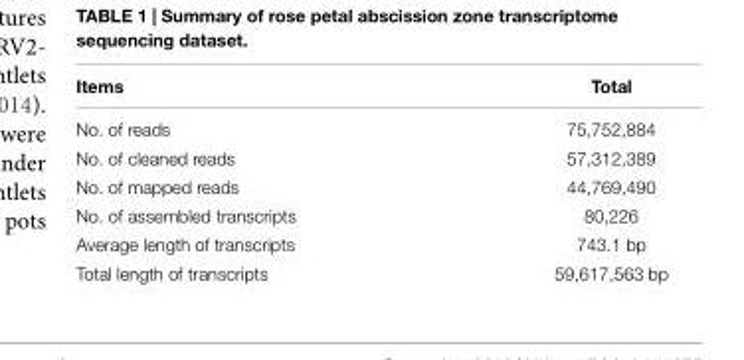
<table><thead><tr><td>Items</td><td>Total</td></tr></thead><tbody><tr><td>No. of reads</td><td>75,752,884</td></tr><tr><td>No. of cleaned reads</td><td>57,312,389</td></tr><tr><td>No. of mapped reads</td><td>44,769,490</td></tr><tr><td>No. of assembled transcripts</td><td>80,226</td></tr><tr><td>Average length of transcripts</td><td>743.1 bp</td></tr><tr><td>Total length of transcripts</td><td>59,617,563 bp</td></tr></tbody></table>